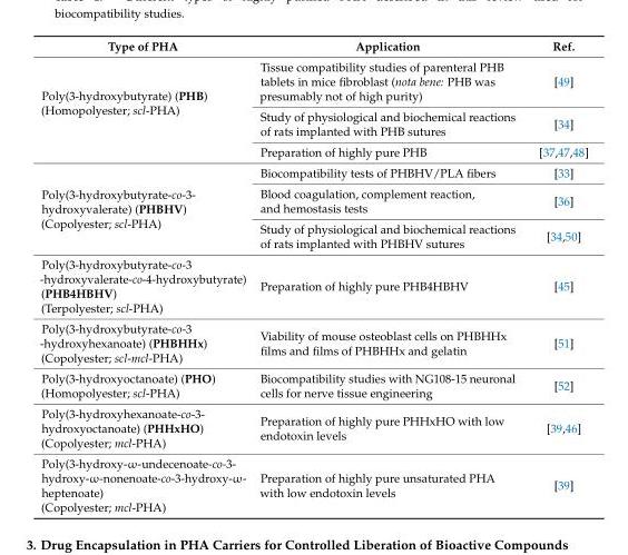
<table><thead><tr><td>Type of PHA</td><td>Application</td><td>Ref.</td></tr></thead><tbody><tr><td rowspan="3">Poly(3-hydroxybutyrate) (PHB) (Homopolyester; scl-PHA)</td><td>Tissue compatibility studies of parenteral PHB tablets in mice fibroblast (nota bene: PHB was presumably not of high purity)</td><td>[49]</td></tr><tr><td>Study of physiological and biochemical reactions of rats implanted with PHB sutures</td><td>[34]</td></tr><tr><td>Preparation of highly pure PHB</td><td>[37,47,48]</td></tr><tr><td rowspan="3">Poly(3-hydroxybutyrate-co-3- hydroxyvalerate) (PHBHV) (Copolyester; scl-PHA)</td><td>Biocompatibility tests of PHBHV/PLA fibers</td><td>[33]</td></tr><tr><td>Blood coagulation, complement reaction, and hemostasis tests</td><td>[36]</td></tr><tr><td>Study of physiological and biochemical reactions of rats implanted with PHBHV sutures</td><td>[34,50]</td></tr><tr><td>Poly(3-hydroxybutyrate-co-3 -hydroxyvalerate-co-4-hydroxybutyrate) (PHB4HBHV) (Terpolyester; scl-PHA)</td><td>Preparation of highly pure PHB4HBHV</td><td>[45]</td></tr><tr><td>Poly(3-hydroxybutyrate-co-3 -hydroxyhexanoate) (PHBHHx) (Copolyester; scl-mcl-PHA)</td><td>Viability of mouse osteoblast cells on PHBHHx films and films of PHBHHx and gelatin</td><td>[51]</td></tr><tr><td>Poly(3-hydroxyoctanoate) (PHO) (Homopolyester; scl-PHA)</td><td>Biocompatibility studies with NG108-15 neuronal cells for nerve tissue engineering</td><td>[52]</td></tr><tr><td>Poly(3-hydroxyhexanoate-co-3- hydroxyoctanoate) (PHHxHO) (Copolyester; mcl-PHA)</td><td>Preparation of highly pure PHHxHO with low endotoxin levels</td><td>[39,46]</td></tr><tr><td>Poly(3-hydroxy-ω-undecenoate-co-3- hydroxy-ω-nonenoate-co-3-hydroxy-ω- heptenoate) (Copolyester; mcl-PHA)</td><td>Preparation of highly pure unsaturated PHA with low endotoxin levels</td><td>[39]</td></tr></tbody></table>